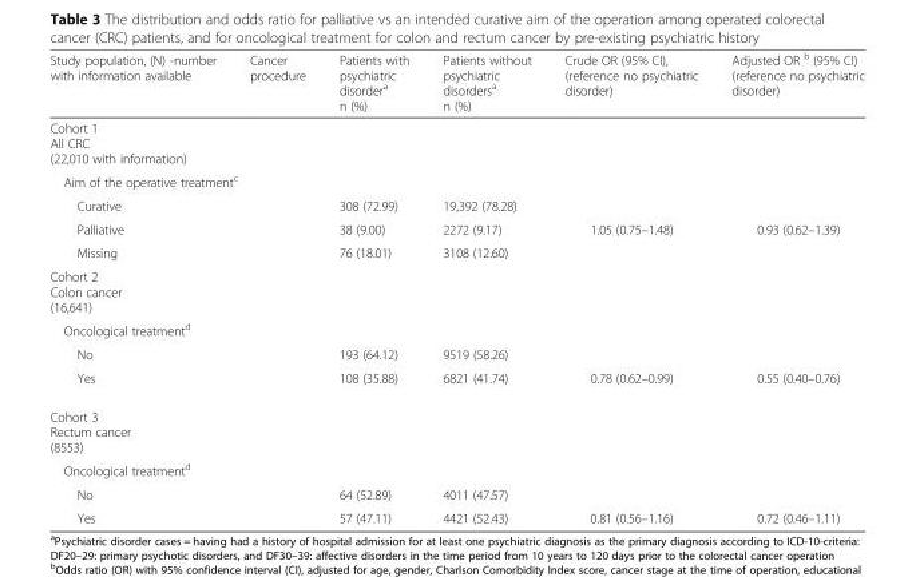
<table><thead><tr><td>Study population, (N) -number with information available</td><td>Cancer procedure</td><td>Patients with psychiatric disorder<sup>a</sup> n (%)</td><td>Patients without psychiatric disorders<sup>a</sup> n (%)</td><td>Crude OR (95% CI), (reference no psychiatric disorder)</td><td>Adjusted OR <sup>b</sup> (95% CI) (reference no psychiatric disorder)</td></tr></thead><tbody><tr><td colspan="6">Cohort 1 All CRC (22,010 with information)</td></tr><tr><td colspan="6">Aim of the operative treatment<sup>c</sup></td></tr><tr><td colspan="2">Curative</td><td>308 (72.99)</td><td>19,392 (78.28)</td><td></td><td></td></tr><tr><td colspan="2">Palliative</td><td>38 (9.00)</td><td>2272 (9.17)</td><td>1.05 (0.75–1.48)</td><td>0.93 (0.62–1.39)</td></tr><tr><td colspan="2">Missing</td><td>76 (18.01)</td><td>3108 (12.60)</td><td></td><td></td></tr><tr><td colspan="6">Cohort 2 Colon cancer (16,641)</td></tr><tr><td colspan="6">Oncological treatment<sup>d</sup></td></tr><tr><td colspan="2">No</td><td>193 (64.12)</td><td>9519 (58.26)</td><td></td><td></td></tr><tr><td colspan="2">Yes</td><td>108 (35.88)</td><td>6821 (41.74)</td><td>0.78 (0.62–0.99)</td><td>0.55 (0.40–0.76)</td></tr><tr><td colspan="6">Cohort 3 Rectum cancer (8553)</td></tr><tr><td colspan="6">Oncological treatment<sup>d</sup></td></tr><tr><td colspan="2">No</td><td>64 (52.89)</td><td>4011 (47.57)</td><td></td><td></td></tr><tr><td colspan="2">Yes</td><td>57 (47.11)</td><td>4421 (52.43)</td><td>0.81 (0.56–1.16)</td><td>0.72 (0.46–1.11)</td></tr></tbody></table>